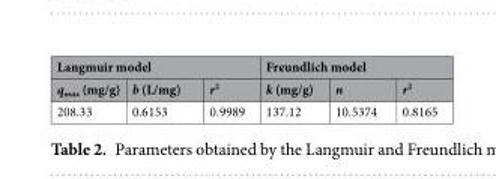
<table><thead><tr><td colspan="3">Langmuir model</td><td colspan="3">Freundlich model</td></tr><tr><td>q<sub>max</sub> (mg/g)</td><td>b (L/mg)</td><td>r<sup>2</sup></td><td>k (mg/g)</td><td>n</td><td>r<sup>2</sup></td></tr></thead><tbody><tr><td>208.33</td><td>0.6153</td><td>0.9989</td><td>137.12</td><td>10.5374</td><td>0.8165</td></tr></tbody></table>